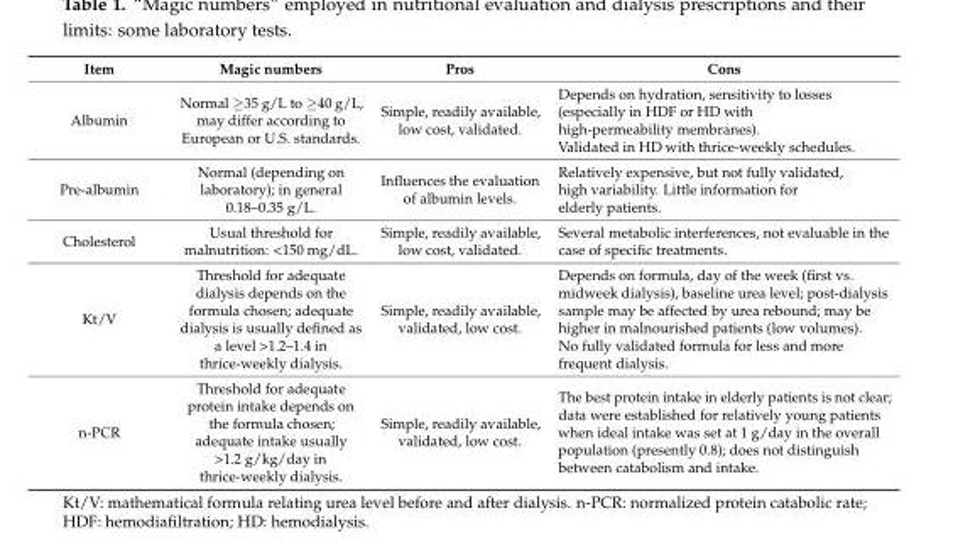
<table><thead><tr><td>Item</td><td>Magic numbers</td><td>Pros</td><td>Cons</td></tr></thead><tbody><tr><td>Albumin</td><td>Normal ≥35 g/L to ≥40 g/L, may differ according to European or U.S. standards.</td><td>Simple, readily available, low cost, validated.</td><td>Depends on hydration, sensitivity to losses (especially in HDF or HD with high-permeability membranes). Validated in HD with thrice-weekly schedules.</td></tr><tr><td>Pre-albumin</td><td>Normal (depending on laboratory); in general 0.18–0.35 g/L.</td><td>Influences the evaluation of albumin levels.</td><td>Relatively expensive, but not fully validated, high variability. Little information for elderly patients.</td></tr><tr><td>Cholesterol</td><td>Usual threshold for malnutrition: &lt;150 mg/dL.</td><td>Simple, readily available, low cost, validated.</td><td>Several metabolic interferences, not evaluable in the case of specific treatments.</td></tr><tr><td>Kt/V</td><td>Threshold for adequate dialysis depends on the formula chosen; adequate dialysis is usually defined as a level &gt;1.2–1.4 in thrice-weekly dialysis.</td><td>Simple, readily available, validated, low cost.</td><td>Depends on formula, day of the week (first vs. midweek dialysis), baseline urea level; post-dialysis sample may be affected by urea rebound; may be higher in malnourished patients (low volumes). No fully validated formula for less and more frequent dialysis.</td></tr><tr><td>n-PCR</td><td>Threshold for adequate protein intake depends on the formula chosen; adequate intake usually &gt;1.2 g/kg/day in thrice-weekly dialysis.</td><td>Simple, readily available, validated, low cost.</td><td>The best protein intake in elderly patients is not clear; data were established for relatively young patients when ideal intake was set at 1 g/day in the overall population (presently 0.8); does not distinguish between catabolism and intake.</td></tr></tbody></table>